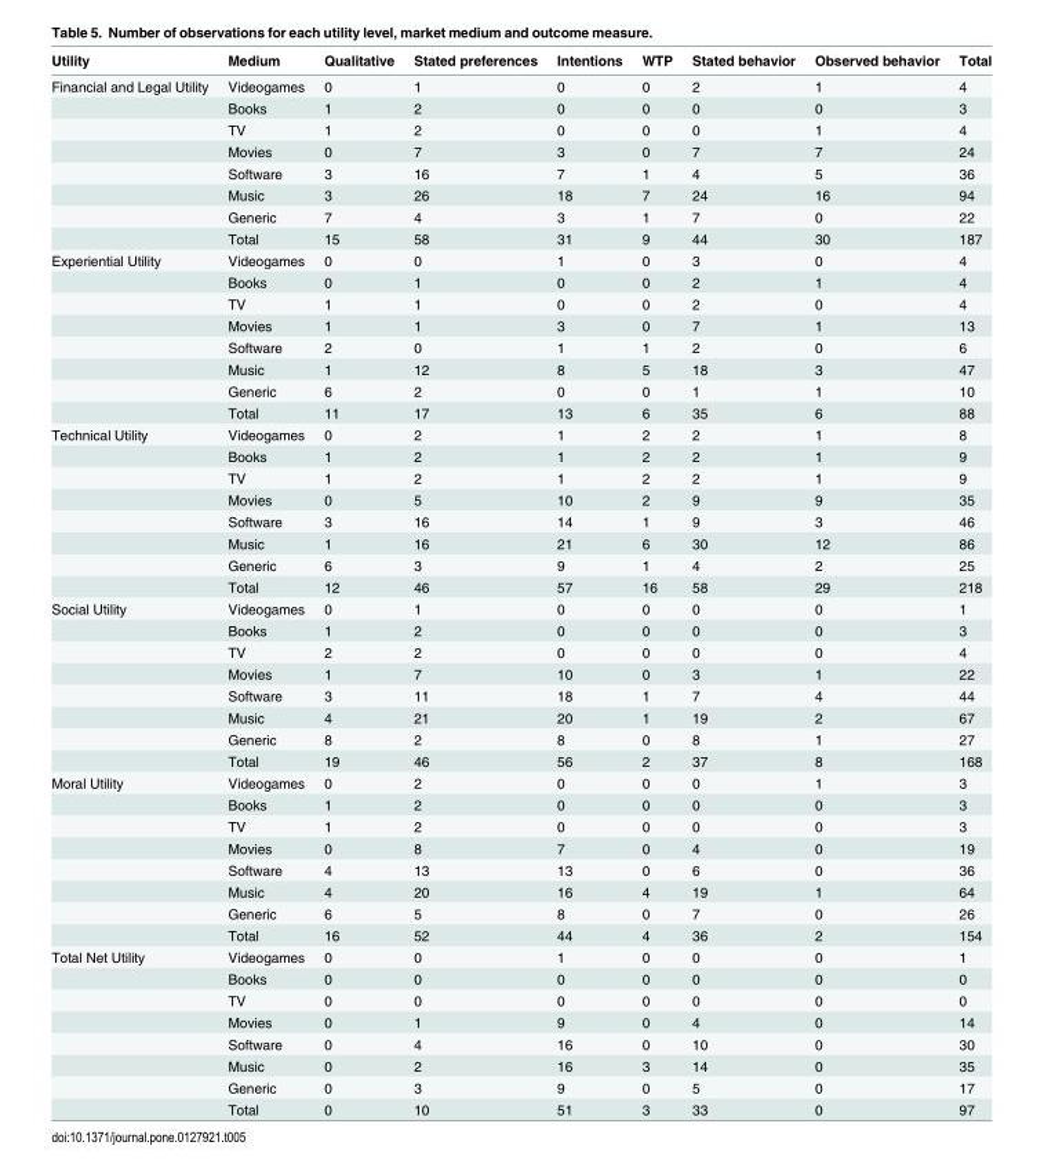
<table><thead><tr><td>Utility</td><td>Medium</td><td>Qualitative</td><td>Stated preferences</td><td>Intentions</td><td>WTP</td><td>Stated behavior</td><td>Observed behavior</td><td>Total</td></tr></thead><tbody><tr><td rowspan="8">Financial and Legal Utility</td><td>Videogames</td><td>0</td><td>1</td><td>0</td><td>0</td><td>2</td><td>1</td><td>4</td></tr><tr><td>Books</td><td>1</td><td>2</td><td>0</td><td>0</td><td>0</td><td>0</td><td>3</td></tr><tr><td>TV</td><td>1</td><td>2</td><td>0</td><td>0</td><td>0</td><td>1</td><td>4</td></tr><tr><td>Movies</td><td>0</td><td>7</td><td>3</td><td>0</td><td>7</td><td>7</td><td>24</td></tr><tr><td>Software</td><td>3</td><td>16</td><td>7</td><td>1</td><td>4</td><td>5</td><td>36</td></tr><tr><td>Music</td><td>3</td><td>26</td><td>18</td><td>7</td><td>24</td><td>16</td><td>94</td></tr><tr><td>Generic</td><td>7</td><td>4</td><td>3</td><td>1</td><td>7</td><td>0</td><td>22</td></tr><tr><td>Total</td><td>15</td><td>58</td><td>31</td><td>9</td><td>44</td><td>30</td><td>187</td></tr><tr><td rowspan="8">Experiential Utility</td><td>Videogames</td><td>0</td><td>0</td><td>1</td><td>0</td><td>3</td><td>0</td><td>4</td></tr><tr><td>Books</td><td>0</td><td>1</td><td>0</td><td>0</td><td>2</td><td>1</td><td>4</td></tr><tr><td>TV</td><td>1</td><td>1</td><td>0</td><td>0</td><td>2</td><td>0</td><td>4</td></tr><tr><td>Movies</td><td>1</td><td>1</td><td>3</td><td>0</td><td>7</td><td>1</td><td>13</td></tr><tr><td>Software</td><td>2</td><td>0</td><td>1</td><td>1</td><td>2</td><td>0</td><td>6</td></tr><tr><td>Music</td><td>1</td><td>12</td><td>8</td><td>5</td><td>18</td><td>3</td><td>47</td></tr><tr><td>Generic</td><td>6</td><td>2</td><td>0</td><td>0</td><td>1</td><td>1</td><td>10</td></tr><tr><td>Total</td><td>11</td><td>17</td><td>13</td><td>6</td><td>35</td><td>6</td><td>88</td></tr><tr><td rowspan="8">Technical Utility</td><td>Videogames</td><td>0</td><td>2</td><td>1</td><td>2</td><td>2</td><td>1</td><td>8</td></tr><tr><td>Books</td><td>1</td><td>2</td><td>1</td><td>2</td><td>2</td><td>1</td><td>9</td></tr><tr><td>TV</td><td>1</td><td>2</td><td>1</td><td>2</td><td>2</td><td>1</td><td>9</td></tr><tr><td>Movies</td><td>0</td><td>5</td><td>10</td><td>2</td><td>9</td><td>9</td><td>35</td></tr><tr><td>Software</td><td>3</td><td>16</td><td>14</td><td>1</td><td>9</td><td>3</td><td>46</td></tr><tr><td>Music</td><td>1</td><td>16</td><td>21</td><td>6</td><td>30</td><td>12</td><td>86</td></tr><tr><td>Generic</td><td>6</td><td>3</td><td>9</td><td>1</td><td>4</td><td>2</td><td>25</td></tr><tr><td>Total</td><td>12</td><td>46</td><td>57</td><td>16</td><td>58</td><td>29</td><td>218</td></tr><tr><td rowspan="8">Social Utility</td><td>Videogames</td><td>0</td><td>1</td><td>0</td><td>0</td><td>0</td><td>0</td><td>1</td></tr><tr><td>Books</td><td>1</td><td>2</td><td>0</td><td>0</td><td>0</td><td>0</td><td>3</td></tr><tr><td>TV</td><td>2</td><td>2</td><td>0</td><td>0</td><td>0</td><td>0</td><td>4</td></tr><tr><td>Movies</td><td>1</td><td>7</td><td>10</td><td>0</td><td>3</td><td>1</td><td>22</td></tr><tr><td>Software</td><td>3</td><td>11</td><td>18</td><td>1</td><td>7</td><td>4</td><td>44</td></tr><tr><td>Music</td><td>4</td><td>21</td><td>20</td><td>1</td><td>19</td><td>2</td><td>67</td></tr><tr><td>Generic</td><td>8</td><td>2</td><td>8</td><td>0</td><td>8</td><td>1</td><td>27</td></tr><tr><td>Total</td><td>19</td><td>46</td><td>56</td><td>2</td><td>37</td><td>8</td><td>168</td></tr><tr><td rowspan="8">Moral Utility</td><td>Videogames</td><td>0</td><td>2</td><td>0</td><td>0</td><td>0</td><td>1</td><td>3</td></tr><tr><td>Books</td><td>1</td><td>2</td><td>0</td><td>0</td><td>0</td><td>0</td><td>3</td></tr><tr><td>TV</td><td>1</td><td>2</td><td>0</td><td>0</td><td>0</td><td>0</td><td>3</td></tr><tr><td>Movies</td><td>0</td><td>8</td><td>7</td><td>0</td><td>4</td><td>0</td><td>19</td></tr><tr><td>Software</td><td>4</td><td>13</td><td>13</td><td>0</td><td>6</td><td>0</td><td>36</td></tr><tr><td>Music</td><td>4</td><td>20</td><td>16</td><td>4</td><td>19</td><td>1</td><td>64</td></tr><tr><td>Generic</td><td>6</td><td>5</td><td>8</td><td>0</td><td>7</td><td>0</td><td>26</td></tr><tr><td>Total</td><td>16</td><td>52</td><td>44</td><td>4</td><td>36</td><td>2</td><td>154</td></tr><tr><td rowspan="8">Total Net Utility</td><td>Videogames</td><td>0</td><td>0</td><td>1</td><td>0</td><td>0</td><td>0</td><td>1</td></tr><tr><td>Books</td><td>0</td><td>0</td><td>0</td><td>0</td><td>0</td><td>0</td><td>0</td></tr><tr><td>TV</td><td>0</td><td>0</td><td>0</td><td>0</td><td>0</td><td>0</td><td>0</td></tr><tr><td>Movies</td><td>0</td><td>1</td><td>9</td><td>0</td><td>4</td><td>0</td><td>14</td></tr><tr><td>Software</td><td>0</td><td>4</td><td>16</td><td>0</td><td>10</td><td>0</td><td>30</td></tr><tr><td>Music</td><td>0</td><td>2</td><td>16</td><td>3</td><td>14</td><td>0</td><td>35</td></tr><tr><td>Generic</td><td>0</td><td>3</td><td>9</td><td>0</td><td>5</td><td>0</td><td>17</td></tr><tr><td>Total</td><td>0</td><td>10</td><td>51</td><td>3</td><td>33</td><td>0</td><td>97</td></tr></tbody></table>